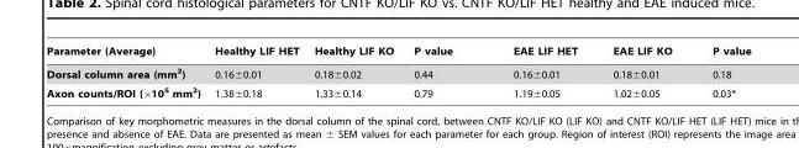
<table><thead><tr><td>Parameter (Average)</td><td>Healthy LIF HET</td><td>Healthy LIF KO</td><td>P value</td><td>EAE LIF HET</td><td>EAE LIF KO</td><td>P value</td></tr></thead><tbody><tr><td>Dorsal column area (mm<sup>2</sup>)</td><td>0.16±0.01</td><td>0.18±0.02</td><td>0.44</td><td>0.16±0.01</td><td>0.18±0.01</td><td>0.18</td></tr><tr><td>Axon counts/ROI (×10<sup>5</sup> mm<sup>2</sup>)</td><td>1.38±0.18</td><td>1.33±0.14</td><td>0.79</td><td>1.19±0.05</td><td>1.02±0.05</td><td>0.03*</td></tr></tbody></table>